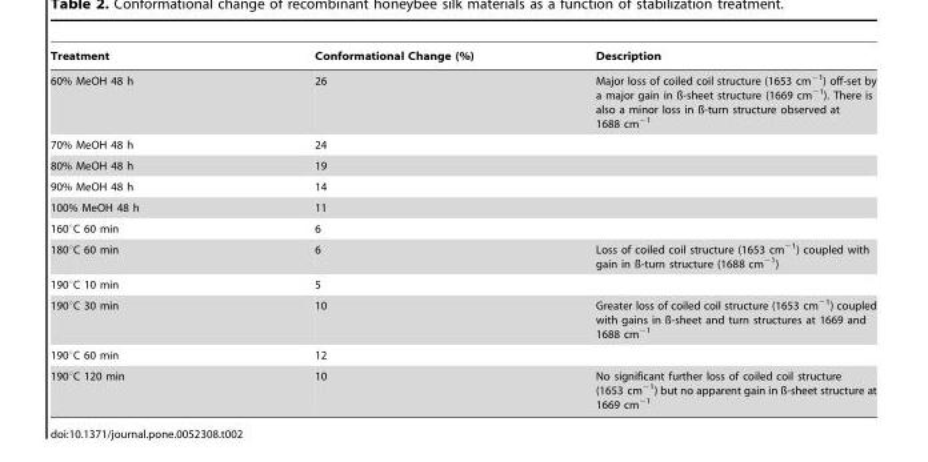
<table><thead><tr><td>Treatment</td><td>Conformational Change (%)</td><td>Description</td></tr></thead><tbody><tr><td>60% MeOH 48 h</td><td>26</td><td>Major loss of coiled coil structure (1653 cm<sup>−1</sup>) off-set by a major gain in ß-sheet structure (1669 cm<sup>−1</sup>). There is also a minor loss in ß-turn structure observed at 1688 cm<sup>−1</sup></td></tr><tr><td>70% MeOH 48 h</td><td>24</td><td></td></tr><tr><td>80% MeOH 48 h</td><td>19</td><td></td></tr><tr><td>90% MeOH 48 h</td><td>14</td><td></td></tr><tr><td>100% MeOH 48 h</td><td>11</td><td></td></tr><tr><td>160°C 60 min</td><td>6</td><td></td></tr><tr><td>180°C 60 min</td><td>6</td><td>Loss of coiled coil structure (1653 cm<sup>−1</sup>) coupled with gain in ß-turn structure (1688 cm<sup>−1</sup>)</td></tr><tr><td>190°C 10 min</td><td>5</td><td></td></tr><tr><td>190°C 30 min</td><td>10</td><td>Greater loss of coiled coil structure (1653 cm<sup>−1</sup>) coupled with gains in ß-sheet and turn structures at 1669 and 1688 cm<sup>−1</sup></td></tr><tr><td>190°C 60 min</td><td>12</td><td></td></tr><tr><td>190°C 120 min</td><td>10</td><td>No significant further loss of coiled coil structure (1653 cm<sup>−1</sup>) but no apparent gain in ß-sheet structure at 1669 cm<sup>−1</sup></td></tr></tbody></table>